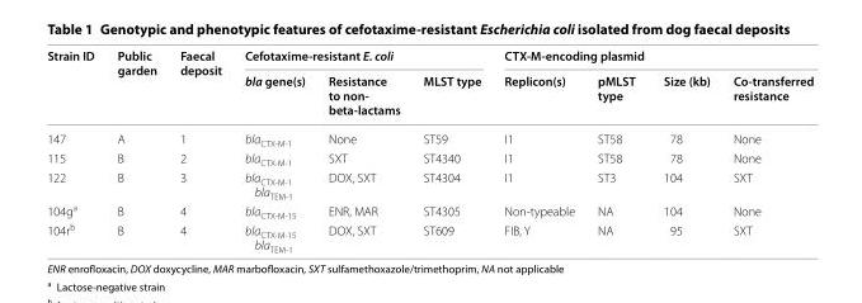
<table><thead><tr><td rowspan="2">Strain ID</td><td rowspan="2">Public garden</td><td rowspan="2">Faecal deposit</td><td colspan="3">Cefotaxime-resistant E. coli</td><td colspan="4">CTX-M-encoding plasmid</td></tr><tr><td>bla gene(s)</td><td>Resistance to non- beta-lactams</td><td>MLST type</td><td>Replicon(s)</td><td>pMLST type</td><td>Size (kb)</td><td>Co-transferred resistance</td></tr></thead><tbody><tr><td>147</td><td>A</td><td>1</td><td>bla<sub>CTX-M-1</sub></td><td>None</td><td>ST59</td><td>I1</td><td>ST58</td><td>78</td><td>None</td></tr><tr><td>115</td><td>B</td><td>2</td><td>bla<sub>CTX-M-1</sub></td><td>SXT</td><td>ST4340</td><td>I1</td><td>ST58</td><td>78</td><td>None</td></tr><tr><td>122</td><td>B</td><td>3</td><td>bla<sub>CTX-M-1</sub> bla<sub>TEM-1</sub></td><td>DOX, SXT</td><td>ST4304</td><td>I1</td><td>ST3</td><td>104</td><td>SXT</td></tr><tr><td>104g<sup>a</sup></td><td>B</td><td>4</td><td>bla<sub>CTX-M-15</sub></td><td>ENR, MAR</td><td>ST4305</td><td>Non-typeable</td><td>NA</td><td>104</td><td>None</td></tr><tr><td>104r<sup>b</sup></td><td>B</td><td>4</td><td>bla<sub>CTX-M-15</sub> bla<sub>TEM-1</sub></td><td>DOX, SXT</td><td>ST609</td><td>FIB, Y</td><td>NA</td><td>95</td><td>SXT</td></tr></tbody></table>